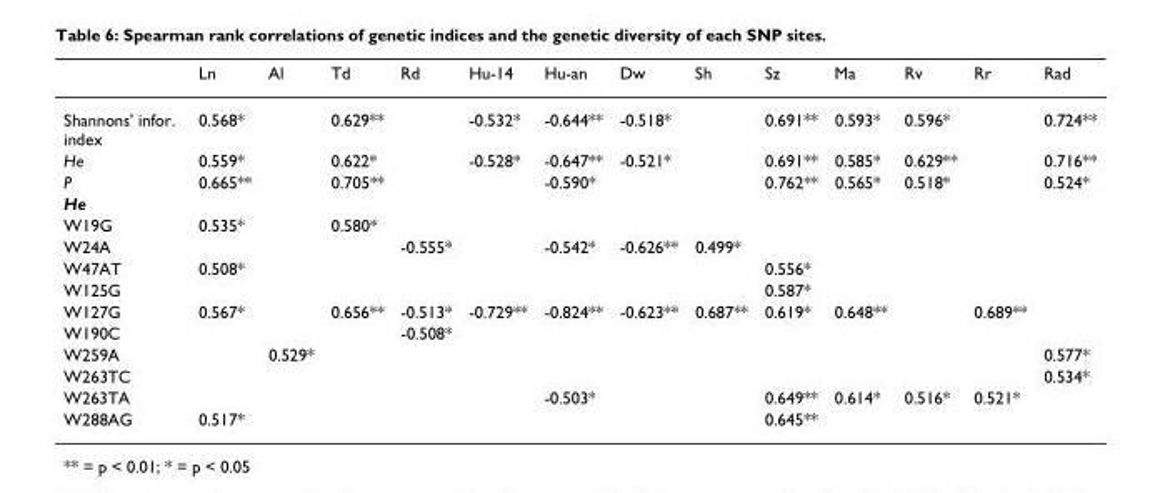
<table><thead><tr><td></td><td>Ln</td><td>Al</td><td>Td</td><td>Rd</td><td>Hu-14</td><td>Hu-an</td><td>Dw</td><td>Sh</td><td>Sz</td><td>Ma</td><td>Rv</td><td>Rr</td><td>Rad</td></tr></thead><tbody><tr><td>Shannons&#x27; infor. index</td><td>0.568*</td><td></td><td>0.629**</td><td></td><td>-0.532*</td><td>-0.644**</td><td>-0.518*</td><td></td><td>0.691**</td><td>0.593*</td><td>0.596*</td><td></td><td>0.724**</td></tr><tr><td>He</td><td>0.559*</td><td></td><td>0.622*</td><td></td><td>-0.528*</td><td>-0.647**</td><td>-0.521*</td><td></td><td>0.691**</td><td>0.585*</td><td>0.629**</td><td></td><td>0.716**</td></tr><tr><td>P</td><td>0.665**</td><td></td><td>0.705**</td><td></td><td></td><td>-0.590*</td><td></td><td></td><td>0.762**</td><td>0.565*</td><td>0.518*</td><td></td><td>0.524*</td></tr><tr><td colspan="14">He</td></tr><tr><td>W19G</td><td>0.535*</td><td></td><td>0.580*</td><td></td><td></td><td></td><td></td><td></td><td></td><td></td><td></td><td></td><td></td></tr><tr><td>W24A</td><td></td><td></td><td></td><td>-0.555*</td><td></td><td>-0.542*</td><td>-0.626**</td><td>0.499*</td><td></td><td></td><td></td><td></td><td></td></tr><tr><td>W47AT</td><td>0.508*</td><td></td><td></td><td></td><td></td><td></td><td></td><td></td><td>0.556*</td><td></td><td></td><td></td><td></td></tr><tr><td>W125G</td><td></td><td></td><td></td><td></td><td></td><td></td><td></td><td></td><td>0.587*</td><td></td><td></td><td></td><td></td></tr><tr><td>W127G</td><td>0.567*</td><td></td><td>0.656**</td><td>-0.513*</td><td>-0.729**</td><td>-0.824**</td><td>-0.623**</td><td>0.687**</td><td>0.619*</td><td>0.648**</td><td></td><td>0.689**</td><td></td></tr><tr><td>W190C</td><td></td><td></td><td></td><td>-0.508*</td><td></td><td></td><td></td><td></td><td></td><td></td><td></td><td></td><td></td></tr><tr><td>W259A</td><td></td><td>0.529*</td><td></td><td></td><td></td><td></td><td></td><td></td><td></td><td></td><td></td><td></td><td>0.577*</td></tr><tr><td>W263TC</td><td></td><td></td><td></td><td></td><td></td><td></td><td></td><td></td><td></td><td></td><td></td><td></td><td>0.534*</td></tr><tr><td>W263TA</td><td></td><td></td><td></td><td></td><td></td><td>-0.503*</td><td></td><td></td><td>0.649**</td><td>0.614*</td><td>0.516*</td><td>0.521*</td><td></td></tr><tr><td>W288AG</td><td>0.517*</td><td></td><td></td><td></td><td></td><td></td><td></td><td></td><td>0.645**</td><td></td><td></td><td></td><td></td></tr></tbody></table>